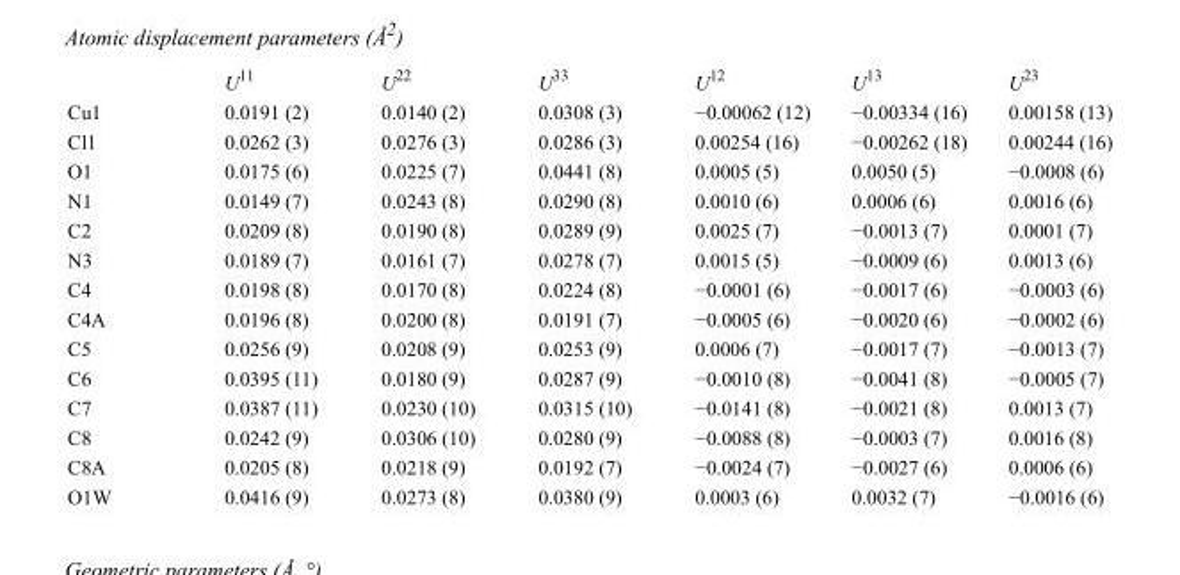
<table><thead><tr><td></td><td>U<sup>11</sup></td><td>U<sup>22</sup></td><td>U<sup>33</sup></td><td>U<sup>12</sup></td><td>U<sup>13</sup></td><td>U<sup>23</sup></td></tr></thead><tbody><tr><td>Cu1</td><td>0.0191 (2)</td><td>0.0140 (2)</td><td>0.0308 (3)</td><td>−0.00062 (12)</td><td>−0.00334 (16)</td><td>0.00158 (13)</td></tr><tr><td>Cl1</td><td>0.0262 (3)</td><td>0.0276 (3)</td><td>0.0286 (3)</td><td>0.00254 (16)</td><td>−0.00262 (18)</td><td>0.00244 (16)</td></tr><tr><td>O1</td><td>0.0175 (6)</td><td>0.0225 (7)</td><td>0.0441 (8)</td><td>0.0005 (5)</td><td>0.0050 (5)</td><td>−0.0008 (6)</td></tr><tr><td>N1</td><td>0.0149 (7)</td><td>0.0243 (8)</td><td>0.0290 (8)</td><td>0.0010 (6)</td><td>0.0006 (6)</td><td>0.0016 (6)</td></tr><tr><td>C2</td><td>0.0209 (8)</td><td>0.0190 (8)</td><td>0.0289 (9)</td><td>0.0025 (7)</td><td>−0.0013 (7)</td><td>0.0001 (7)</td></tr><tr><td>N3</td><td>0.0189 (7)</td><td>0.0161 (7)</td><td>0.0278 (7)</td><td>0.0015 (5)</td><td>−0.0009 (6)</td><td>0.0013 (6)</td></tr><tr><td>C4</td><td>0.0198 (8)</td><td>0.0170 (8)</td><td>0.0224 (8)</td><td>−0.0001 (6)</td><td>−0.0017 (6)</td><td>−0.0003 (6)</td></tr><tr><td>C4A</td><td>0.0196 (8)</td><td>0.0200 (8)</td><td>0.0191 (7)</td><td>−0.0005 (6)</td><td>−0.0020 (6)</td><td>−0.0002 (6)</td></tr><tr><td>C5</td><td>0.0256 (9)</td><td>0.0208 (9)</td><td>0.0253 (9)</td><td>0.0006 (7)</td><td>−0.0017 (7)</td><td>−0.0013 (7)</td></tr><tr><td>C6</td><td>0.0395 (11)</td><td>0.0180 (9)</td><td>0.0287 (9)</td><td>−0.0010 (8)</td><td>−0.0041 (8)</td><td>−0.0005 (7)</td></tr><tr><td>C7</td><td>0.0387 (11)</td><td>0.0230 (10)</td><td>0.0315 (10)</td><td>−0.0141 (8)</td><td>−0.0021 (8)</td><td>0.0013 (7)</td></tr><tr><td>C8</td><td>0.0242 (9)</td><td>0.0306 (10)</td><td>0.0280 (9)</td><td>−0.0088 (8)</td><td>−0.0003 (7)</td><td>0.0016 (8)</td></tr><tr><td>C8A</td><td>0.0205 (8)</td><td>0.0218 (9)</td><td>0.0192 (7)</td><td>−0.0024 (7)</td><td>−0.0027 (6)</td><td>0.0006 (6)</td></tr><tr><td>O1W</td><td>0.0416 (9)</td><td>0.0273 (8)</td><td>0.0380 (9)</td><td>0.0003 (6)</td><td>0.0032 (7)</td><td>−0.0016 (6)</td></tr></tbody></table>